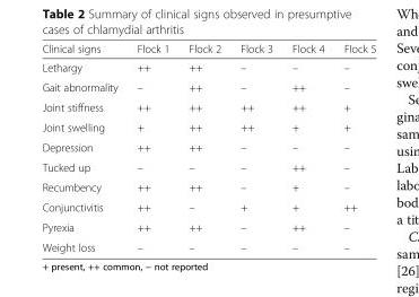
<table><thead><tr><td>Clinical signs</td><td>Flock 1</td><td>Flock 2</td><td>Flock 3</td><td>Flock 4</td><td>FIock 5</td></tr></thead><tbody><tr><td>Lethargy</td><td>++</td><td>++</td><td>–</td><td>–</td><td>–</td></tr><tr><td>Gait abnormality</td><td>–</td><td>++</td><td>–</td><td>++</td><td>–</td></tr><tr><td>Joint stiffness</td><td>++</td><td>++</td><td>++</td><td>++</td><td>+</td></tr><tr><td>Joint swelling</td><td>+</td><td>++</td><td>++</td><td>+</td><td>+</td></tr><tr><td>Depression</td><td>++</td><td>++</td><td>–</td><td>–</td><td>–</td></tr><tr><td>Tucked up</td><td>–</td><td>–</td><td>–</td><td>++</td><td>–</td></tr><tr><td>Recumbency</td><td>++</td><td>++</td><td>–</td><td>+</td><td>–</td></tr><tr><td>Conjunctivitis</td><td>++</td><td>–</td><td>+</td><td>+</td><td>++</td></tr><tr><td>Pyrexia</td><td>++</td><td>++</td><td>–</td><td>++</td><td>–</td></tr><tr><td>Weight loss</td><td>–</td><td>–</td><td>–</td><td>–</td><td>–</td></tr></tbody></table>